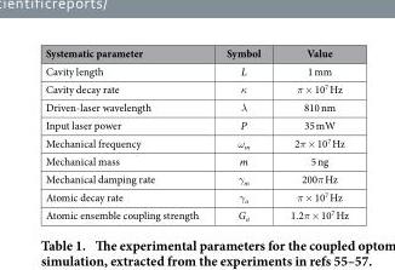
<table><thead><tr><td>Systematic parameter</td><td>Symbol</td><td>Value</td></tr></thead><tbody><tr><td>Cavity length</td><td>L</td><td>1 mm</td></tr><tr><td>Cavity decay rate</td><td>κ</td><td>π × 10<sup>7</sup> Hz</td></tr><tr><td>Driven-laser wavelength</td><td>λ</td><td>810 nm</td></tr><tr><td>Input laser power</td><td>P</td><td>35 mW</td></tr><tr><td>Mechanical frequency</td><td>ω<sub>m</sub></td><td>2π × 10<sup>7</sup> Hz</td></tr><tr><td>Mechanical mass</td><td>m</td><td>5 ng</td></tr><tr><td>Mechanical damping rate</td><td>γ<sub>m</sub></td><td>200π Hz</td></tr><tr><td>Atomic decay rate</td><td>γ<sub>a</sub></td><td>π × 10<sup>7</sup> Hz</td></tr><tr><td>Atomic ensemble coupling strength</td><td>G<sub>a</sub></td><td>1.2π × 10<sup>7</sup> Hz</td></tr></tbody></table>